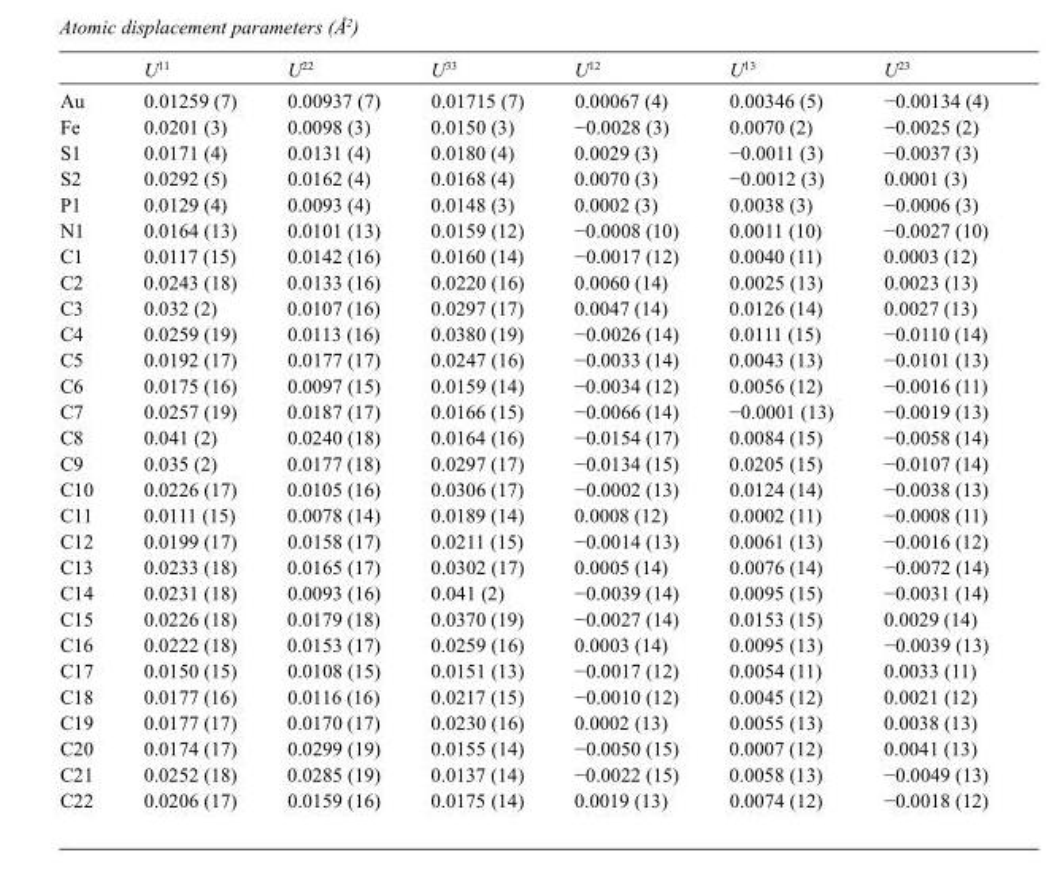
<table><thead><tr><td></td><td>U<sup>11</sup></td><td>U<sup>22</sup></td><td>U<sup>33</sup></td><td>U<sup>12</sup></td><td>U<sup>13</sup></td><td>U<sup>23</sup></td></tr></thead><tbody><tr><td>Au</td><td>0.01259 (7)</td><td>0.00937 (7)</td><td>0.01715 (7)</td><td>0.00067 (4)</td><td>0.00346 (5)</td><td>−0.00134 (4)</td></tr><tr><td>Fe</td><td>0.0201 (3)</td><td>0.0098 (3)</td><td>0.0150 (3)</td><td>−0.0028 (3)</td><td>0.0070 (2)</td><td>−0.0025 (2)</td></tr><tr><td>S1</td><td>0.0171 (4)</td><td>0.0131 (4)</td><td>0.0180 (4)</td><td>0.0029 (3)</td><td>−0.0011 (3)</td><td>−0.0037 (3)</td></tr><tr><td>S2</td><td>0.0292 (5)</td><td>0.0162 (4)</td><td>0.0168 (4)</td><td>0.0070 (3)</td><td>−0.0012 (3)</td><td>0.0001 (3)</td></tr><tr><td>P1</td><td>0.0129 (4)</td><td>0.0093 (4)</td><td>0.0148 (3)</td><td>0.0002 (3)</td><td>0.0038 (3)</td><td>−0.0006 (3)</td></tr><tr><td>N1</td><td>0.0164 (13)</td><td>0.0101 (13)</td><td>0.0159 (12)</td><td>−0.0008 (10)</td><td>0.0011 (10)</td><td>−0.0027 (10)</td></tr><tr><td>C1</td><td>0.0117 (15)</td><td>0.0142 (16)</td><td>0.0160 (14)</td><td>−0.0017 (12)</td><td>0.0040 (11)</td><td>0.0003 (12)</td></tr><tr><td>C2</td><td>0.0243 (18)</td><td>0.0133 (16)</td><td>0.0220 (16)</td><td>0.0060 (14)</td><td>0.0025 (13)</td><td>0.0023 (13)</td></tr><tr><td>C3</td><td>0.032 (2)</td><td>0.0107 (16)</td><td>0.0297 (17)</td><td>0.0047 (14)</td><td>0.0126 (14)</td><td>0.0027 (13)</td></tr><tr><td>C4</td><td>0.0259 (19)</td><td>0.0113 (16)</td><td>0.0380 (19)</td><td>−0.0026 (14)</td><td>0.0111 (15)</td><td>−0.0110 (14)</td></tr><tr><td>C5</td><td>0.0192 (17)</td><td>0.0177 (17)</td><td>0.0247 (16)</td><td>−0.0033 (14)</td><td>0.0043 (13)</td><td>−0.0101 (13)</td></tr><tr><td>C6</td><td>0.0175 (16)</td><td>0.0097 (15)</td><td>0.0159 (14)</td><td>−0.0034 (12)</td><td>0.0056 (12)</td><td>−0.0016 (11)</td></tr><tr><td>C7</td><td>0.0257 (19)</td><td>0.0187 (17)</td><td>0.0166 (15)</td><td>−0.0066 (14)</td><td>−0.0001 (13)</td><td>−0.0019 (13)</td></tr><tr><td>C8</td><td>0.041 (2)</td><td>0.0240 (18)</td><td>0.0164 (16)</td><td>−0.0154 (17)</td><td>0.0084 (15)</td><td>−0.0058 (14)</td></tr><tr><td>C9</td><td>0.035 (2)</td><td>0.0177 (18)</td><td>0.0297 (17)</td><td>−0.0134 (15)</td><td>0.0205 (15)</td><td>−0.0107 (14)</td></tr><tr><td>C10</td><td>0.0226 (17)</td><td>0.0105 (16)</td><td>0.0306 (17)</td><td>−0.0002 (13)</td><td>0.0124 (14)</td><td>−0.0038 (13)</td></tr><tr><td>C11</td><td>0.0111 (15)</td><td>0.0078 (14)</td><td>0.0189 (14)</td><td>0.0008 (12)</td><td>0.0002 (11)</td><td>−0.0008 (11)</td></tr><tr><td>C12</td><td>0.0199 (17)</td><td>0.0158 (17)</td><td>0.0211 (15)</td><td>−0.0014 (13)</td><td>0.0061 (13)</td><td>−0.0016 (12)</td></tr><tr><td>C13</td><td>0.0233 (18)</td><td>0.0165 (17)</td><td>0.0302 (17)</td><td>0.0005 (14)</td><td>0.0076 (14)</td><td>−0.0072 (14)</td></tr><tr><td>C14</td><td>0.0231 (18)</td><td>0.0093 (16)</td><td>0.041 (2)</td><td>−0.0039 (14)</td><td>0.0095 (15)</td><td>−0.0031 (14)</td></tr><tr><td>C15</td><td>0.0226 (18)</td><td>0.0179 (18)</td><td>0.0370 (19)</td><td>−0.0027 (14)</td><td>0.0153 (15)</td><td>0.0029 (14)</td></tr><tr><td>C16</td><td>0.0222 (18)</td><td>0.0153 (17)</td><td>0.0259 (16)</td><td>0.0003 (14)</td><td>0.0095 (13)</td><td>−0.0039 (13)</td></tr><tr><td>C17</td><td>0.0150 (15)</td><td>0.0108 (15)</td><td>0.0151 (13)</td><td>−0.0017 (12)</td><td>0.0054 (11)</td><td>0.0033 (11)</td></tr><tr><td>C18</td><td>0.0177 (16)</td><td>0.0116 (16)</td><td>0.0217 (15)</td><td>−0.0010 (12)</td><td>0.0045 (12)</td><td>0.0021 (12)</td></tr><tr><td>C19</td><td>0.0177 (17)</td><td>0.0170 (17)</td><td>0.0230 (16)</td><td>0.0002 (13)</td><td>0.0055 (13)</td><td>0.0038 (13)</td></tr><tr><td>C20</td><td>0.0174 (17)</td><td>0.0299 (19)</td><td>0.0155 (14)</td><td>−0.0050 (15)</td><td>0.0007 (12)</td><td>0.0041 (13)</td></tr><tr><td>C21</td><td>0.0252 (18)</td><td>0.0285 (19)</td><td>0.0137 (14)</td><td>−0.0022 (15)</td><td>0.0058 (13)</td><td>−0.0049 (13)</td></tr><tr><td>C22</td><td>0.0206 (17)</td><td>0.0159 (16)</td><td>0.0175 (14)</td><td>0.0019 (13)</td><td>0.0074 (12)</td><td>−0.0018 (12)</td></tr></tbody></table>